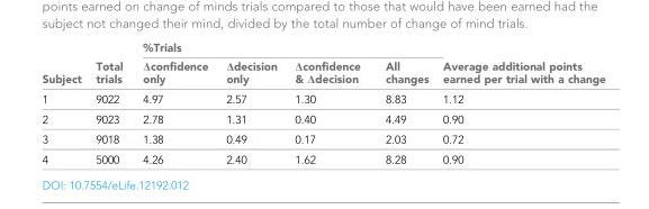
<table><thead><tr><td rowspan="2">Subject</td><td rowspan="2">Total trials</td><td colspan="4">%Trials</td><td rowspan="2">Average additional points earned per trial with a change</td></tr><tr><td>Δconfidence only</td><td>Δdecision only</td><td>Δconfidence &amp; Δdecision</td><td>All changes</td></tr></thead><tbody><tr><td>1</td><td>9022</td><td>4.97</td><td>2.57</td><td>1.30</td><td>8.83</td><td>1.12</td></tr><tr><td>2</td><td>9023</td><td>2.78</td><td>1.31</td><td>0.40</td><td>4.49</td><td>0.90</td></tr><tr><td>3</td><td>9018</td><td>1.38</td><td>0.49</td><td>0.17</td><td>2.03</td><td>0.72</td></tr><tr><td>4</td><td>5000</td><td>4.26</td><td>2.40</td><td>1.62</td><td>8.28</td><td>0.90</td></tr></tbody></table>